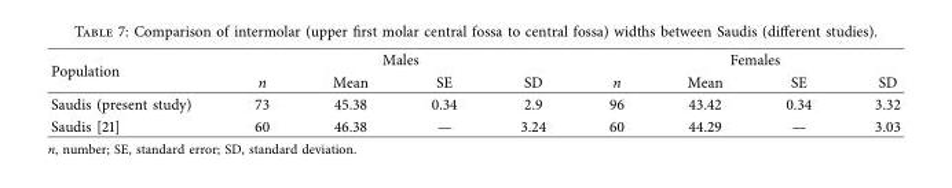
<table><thead><tr><td rowspan="2">Population</td><td colspan="4">Males</td><td colspan="4">Females</td></tr><tr><td>n</td><td>Mean</td><td>SE</td><td>SD</td><td>n</td><td>Mean</td><td>SE</td><td>SD</td></tr></thead><tbody><tr><td>Saudis (present study)</td><td>73</td><td>45.38</td><td>0.34</td><td>2.9</td><td>96</td><td>43.42</td><td>0.34</td><td>3.32</td></tr><tr><td>Saudis [21]</td><td>60</td><td>46.38</td><td>—</td><td>3.24</td><td>60</td><td>44.29</td><td>—</td><td>3.03</td></tr></tbody></table>